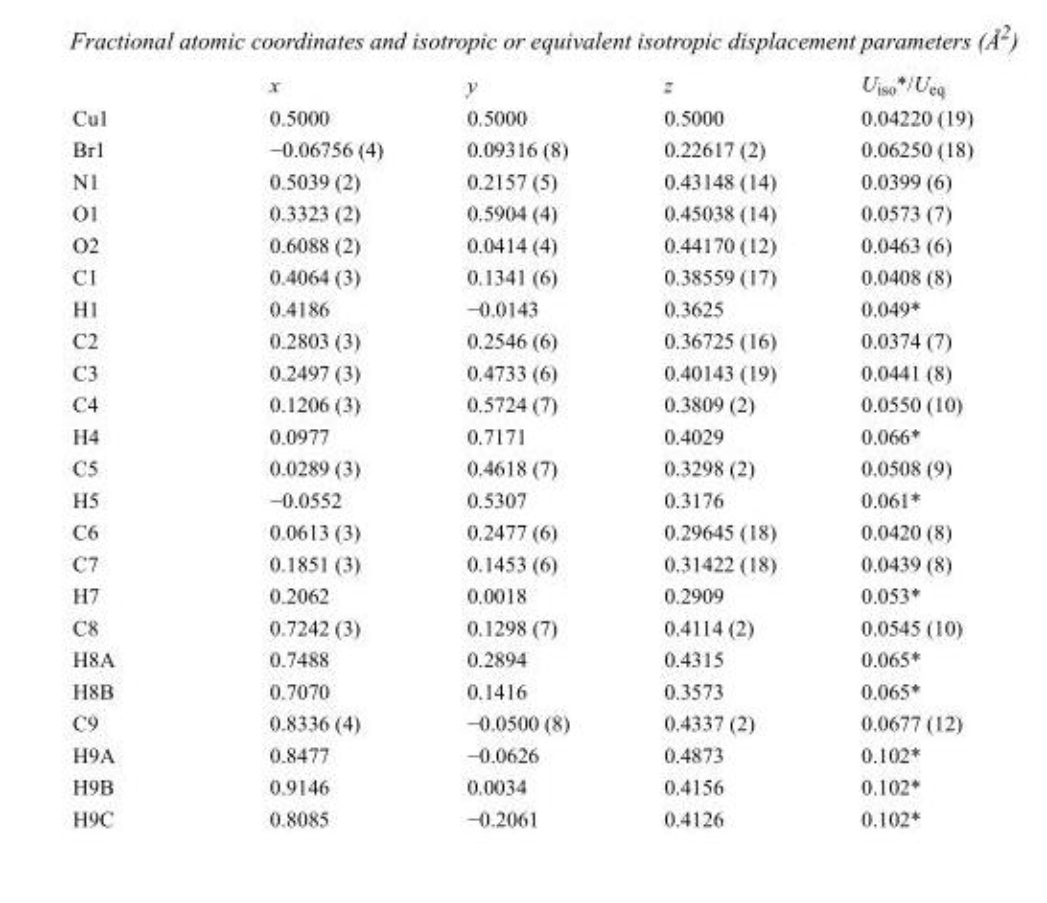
<table><thead><tr><td></td><td>x</td><td>y</td><td>z</td><td>U<sub>iso</sub>*/U<sub>eq</sub></td></tr></thead><tbody><tr><td>Cu1</td><td>0.5000</td><td>0.5000</td><td>0.5000</td><td>0.04220 (19)</td></tr><tr><td>Br1</td><td>−0.06756 (4)</td><td>0.09316 (8)</td><td>0.22617 (2)</td><td>0.06250 (18)</td></tr><tr><td>N1</td><td>0.5039 (2)</td><td>0.2157 (5)</td><td>0.43148 (14)</td><td>0.0399 (6)</td></tr><tr><td>O1</td><td>0.3323 (2)</td><td>0.5904 (4)</td><td>0.45038 (14)</td><td>0.0573 (7)</td></tr><tr><td>O2</td><td>0.6088 (2)</td><td>0.0414 (4)</td><td>0.44170 (12)</td><td>0.0463 (6)</td></tr><tr><td>C1</td><td>0.4064 (3)</td><td>0.1341 (6)</td><td>0.38559 (17)</td><td>0.0408 (8)</td></tr><tr><td>H1</td><td>0.4186</td><td>−0.0143</td><td>0.3625</td><td>0.049*</td></tr><tr><td>C2</td><td>0.2803 (3)</td><td>0.2546 (6)</td><td>0.36725 (16)</td><td>0.0374 (7)</td></tr><tr><td>C3</td><td>0.2497 (3)</td><td>0.4733 (6)</td><td>0.40143 (19)</td><td>0.0441 (8)</td></tr><tr><td>C4</td><td>0.1206 (3)</td><td>0.5724 (7)</td><td>0.3809 (2)</td><td>0.0550 (10)</td></tr><tr><td>H4</td><td>0.0977</td><td>0.7171</td><td>0.4029</td><td>0.066*</td></tr><tr><td>C5</td><td>0.0289 (3)</td><td>0.4618 (7)</td><td>0.3298 (2)</td><td>0.0508 (9)</td></tr><tr><td>H5</td><td>−0.0552</td><td>0.5307</td><td>0.3176</td><td>0.061*</td></tr><tr><td>C6</td><td>0.0613 (3)</td><td>0.2477 (6)</td><td>0.29645 (18)</td><td>0.0420 (8)</td></tr><tr><td>C7</td><td>0.1851 (3)</td><td>0.1453 (6)</td><td>0.31422 (18)</td><td>0.0439 (8)</td></tr><tr><td>H7</td><td>0.2062</td><td>0.0018</td><td>0.2909</td><td>0.053*</td></tr><tr><td>C8</td><td>0.7242 (3)</td><td>0.1298 (7)</td><td>0.4114 (2)</td><td>0.0545 (10)</td></tr><tr><td>H8A</td><td>0.7488</td><td>0.2894</td><td>0.4315</td><td>0.065*</td></tr><tr><td>H8B</td><td>0.7070</td><td>0.1416</td><td>0.3573</td><td>0.065*</td></tr><tr><td>C9</td><td>0.8336 (4)</td><td>−0.0500 (8)</td><td>0.4337 (2)</td><td>0.0677 (12)</td></tr><tr><td>H9A</td><td>0.8477</td><td>−0.0626</td><td>0.4873</td><td>0.102*</td></tr><tr><td>H9B</td><td>0.9146</td><td>0.0034</td><td>0.4156</td><td>0.102*</td></tr><tr><td>H9C</td><td>0.8085</td><td>−0.2061</td><td>0.4126</td><td>0.102*</td></tr></tbody></table>